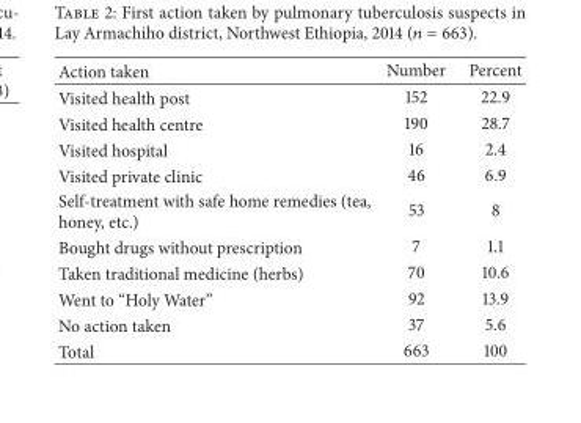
<table><thead><tr><td>Action taken</td><td>Number</td><td>Percent</td></tr></thead><tbody><tr><td>Visited health post</td><td>152</td><td>22.9</td></tr><tr><td>Visited health centre</td><td>190</td><td>28.7</td></tr><tr><td>Visited hospital</td><td>16</td><td>2.4</td></tr><tr><td>Visited private clinic</td><td>46</td><td>6.9</td></tr><tr><td>Self-treatment with safe home remedies (tea, honey, etc.)</td><td>53</td><td>8</td></tr><tr><td>Bought drugs without prescription</td><td>7</td><td>1.1</td></tr><tr><td>Taken traditional medicine (herbs)</td><td>70</td><td>10.6</td></tr><tr><td>Went to “Holy Water”</td><td>92</td><td>13.9</td></tr><tr><td>No action taken</td><td>37</td><td>5.6</td></tr><tr><td>Total</td><td>663</td><td>100</td></tr></tbody></table>